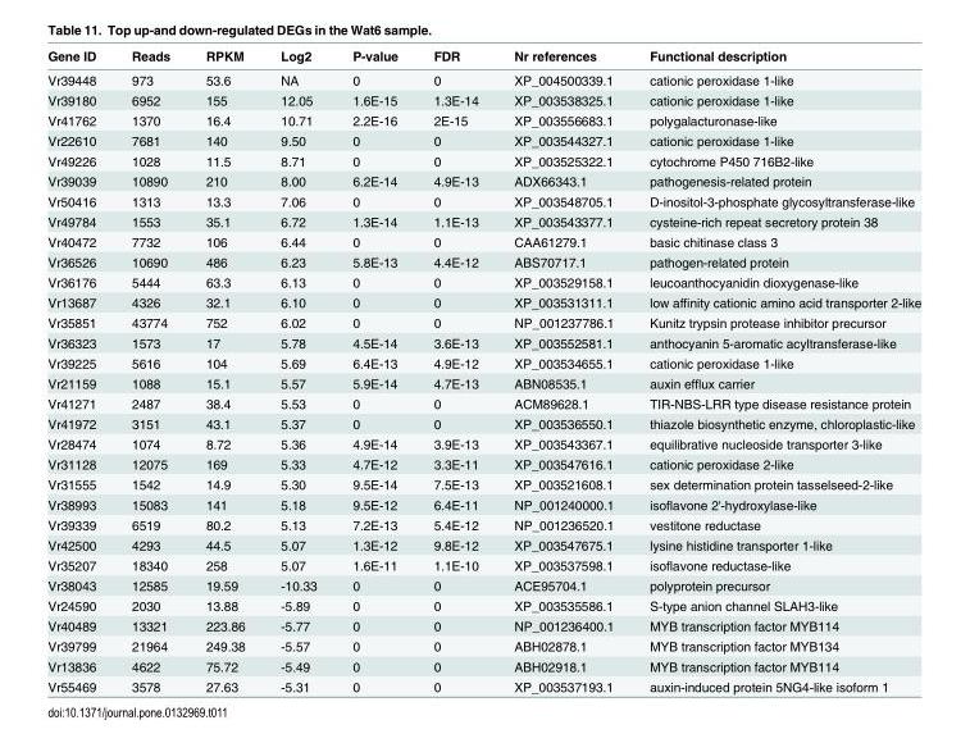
<table><thead><tr><td>Gene ID</td><td>Reads</td><td>RPKM</td><td>Log2</td><td>P-value</td><td>FDR</td><td>Nr references</td><td>Functional description</td></tr></thead><tbody><tr><td>Vr39448</td><td>973</td><td>53.6</td><td>NA</td><td>0</td><td>0</td><td>XP_004500339.1</td><td>cationic peroxidase 1-like</td></tr><tr><td>Vr39180</td><td>6952</td><td>155</td><td>12.05</td><td>1.6E-15</td><td>1.3E-14</td><td>XP_003538325.1</td><td>cationic peroxidase 1-like</td></tr><tr><td>Vr41762</td><td>1370</td><td>16.4</td><td>10.71</td><td>2.2E-16</td><td>2E-15</td><td>XP_003556683.1</td><td>polygalacturonase-like</td></tr><tr><td>Vr22610</td><td>7681</td><td>140</td><td>9.50</td><td>0</td><td>0</td><td>XP_003544327.1</td><td>cationic peroxidase 1-like</td></tr><tr><td>Vr49226</td><td>1028</td><td>11.5</td><td>8.71</td><td>0</td><td>0</td><td>XP_003525322.1</td><td>cytochrome P450 716B2-like</td></tr><tr><td>Vr39039</td><td>10890</td><td>210</td><td>8.00</td><td>6.2E-14</td><td>4.9E-13</td><td>ADX66343.1</td><td>pathogenesis-related protein</td></tr><tr><td>Vr50416</td><td>1313</td><td>13.3</td><td>7.06</td><td>0</td><td>0</td><td>XP_003548705.1</td><td>D-inositol-3-phosphate glycosyltransferase-like</td></tr><tr><td>Vr49784</td><td>1553</td><td>35.1</td><td>6.72</td><td>1.3E-14</td><td>1.1E-13</td><td>XP_003543377.1</td><td>cysteine-rich repeat secretory protein 38</td></tr><tr><td>Vr40472</td><td>7732</td><td>106</td><td>6.44</td><td>0</td><td>0</td><td>CAA61279.1</td><td>basic chitinase class 3</td></tr><tr><td>Vr36526</td><td>10690</td><td>486</td><td>6.23</td><td>5.8E-13</td><td>4.4E-12</td><td>ABS70717.1</td><td>pathogen-related protein</td></tr><tr><td>Vr36176</td><td>5444</td><td>63.3</td><td>6.13</td><td>0</td><td>0</td><td>XP_003529158.1</td><td>leucoanthocyanidin dioxygenase-like</td></tr><tr><td>Vr13687</td><td>4326</td><td>32.1</td><td>6.10</td><td>0</td><td>0</td><td>XP_003531311.1</td><td>low affinity cationic amino acid transporter 2-like</td></tr><tr><td>Vr35851</td><td>43774</td><td>752</td><td>6.02</td><td>0</td><td>0</td><td>NP_001237786.1</td><td>Kunitz trypsin protease inhibitor precursor</td></tr><tr><td>Vr36323</td><td>1573</td><td>17</td><td>5.78</td><td>4.5E-14</td><td>3.6E-13</td><td>XP_003552581.1</td><td>anthocyanin 5-aromatic acyltransferase-like</td></tr><tr><td>Vr39225</td><td>5616</td><td>104</td><td>5.69</td><td>6.4E-13</td><td>4.9E-12</td><td>XP_003534655.1</td><td>cationic peroxidase 1-like</td></tr><tr><td>Vr21159</td><td>1088</td><td>15.1</td><td>5.57</td><td>5.9E-14</td><td>4.7E-13</td><td>ABN08535.1</td><td>auxin efflux carrier</td></tr><tr><td>Vr41271</td><td>2487</td><td>38.4</td><td>5.53</td><td>0</td><td>0</td><td>ACM89628.1</td><td>TIR-NBS-LRR type disease resistance protein</td></tr><tr><td>Vr41972</td><td>3151</td><td>43.1</td><td>5.37</td><td>0</td><td>0</td><td>XP_003536550.1</td><td>thiazole biosynthetic enzyme, chloroplastic-like</td></tr><tr><td>Vr28474</td><td>1074</td><td>8.72</td><td>5.36</td><td>4.9E-14</td><td>3.9E-13</td><td>XP_003543367.1</td><td>equilibrative nucleoside transporter 3-like</td></tr><tr><td>Vr31128</td><td>12075</td><td>169</td><td>5.33</td><td>4.7E-12</td><td>3.3E-11</td><td>XP_003547616.1</td><td>cationic peroxidase 2-like</td></tr><tr><td>Vr31555</td><td>1542</td><td>14.9</td><td>5.30</td><td>9.5E-14</td><td>7.5E-13</td><td>XP_003521608.1</td><td>sex determination protein tasselseed-2-like</td></tr><tr><td>Vr38993</td><td>15083</td><td>141</td><td>5.18</td><td>9.5E-12</td><td>6.4E-11</td><td>NP_001240000.1</td><td>isoflavone 2&#x27;-hydroxylase-like</td></tr><tr><td>Vr39339</td><td>6519</td><td>80.2</td><td>5.13</td><td>7.2E-13</td><td>5.4E-12</td><td>NP_001236520.1</td><td>vestitone reductase</td></tr><tr><td>Vr42500</td><td>4293</td><td>44.5</td><td>5.07</td><td>1.3E-12</td><td>9.8E-12</td><td>XP_003547675.1</td><td>lysine histidine transporter 1-like</td></tr><tr><td>Vr35207</td><td>18340</td><td>258</td><td>5.07</td><td>1.6E-11</td><td>1.1E-10</td><td>XP_003537598.1</td><td>isoflavone reductase-like</td></tr><tr><td>Vr38043</td><td>12585</td><td>19.59</td><td>-10.33</td><td>0</td><td>0</td><td>ACE95704.1</td><td>polyprotein precursor</td></tr><tr><td>Vr24590</td><td>2030</td><td>13.88</td><td>-5.89</td><td>0</td><td>0</td><td>XP_003535586.1</td><td>S-type anion channel SLAH3-like</td></tr><tr><td>Vr40489</td><td>13321</td><td>223.86</td><td>-5.77</td><td>0</td><td>0</td><td>NP_001236400.1</td><td>MYB transcription factor MYB114</td></tr><tr><td>Vr39799</td><td>21964</td><td>249.38</td><td>-5.57</td><td>0</td><td>0</td><td>ABH02878.1</td><td>MYB transcription factor MYB134</td></tr><tr><td>Vr13836</td><td>4622</td><td>75.72</td><td>-5.49</td><td>0</td><td>0</td><td>ABH02918.1</td><td>MYB transcription factor MYB114</td></tr><tr><td>Vr55469</td><td>3578</td><td>27.63</td><td>-5.31</td><td>0</td><td>0</td><td>XP_003537193.1</td><td>auxin-induced protein 5NG4-like isoform 1</td></tr></tbody></table>